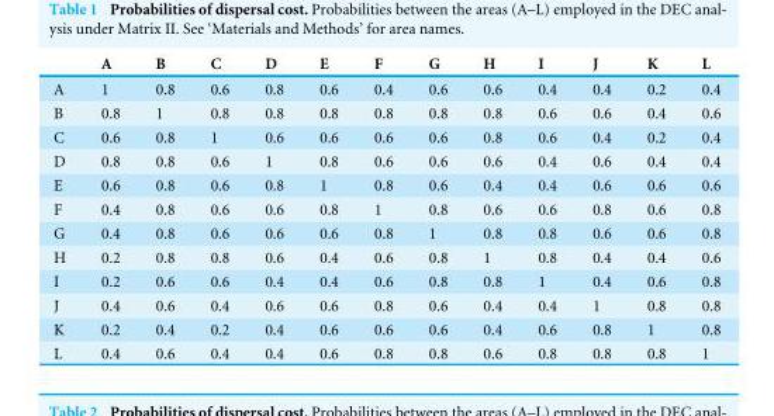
<table><thead><tr><td></td><td>A</td><td>B</td><td>C</td><td>D</td><td>E</td><td>F</td><td>G</td><td>H</td><td>I</td><td>J</td><td>K</td><td>L</td></tr></thead><tbody><tr><td>A</td><td>1</td><td>0.8</td><td>0.6</td><td>0.8</td><td>0.6</td><td>0.4</td><td>0.6</td><td>0.6</td><td>0.4</td><td>0.4</td><td>0.2</td><td>0.4</td></tr><tr><td>B</td><td>0.8</td><td>1</td><td>0.8</td><td>0.8</td><td>0.8</td><td>0.8</td><td>0.8</td><td>0.8</td><td>0.6</td><td>0.6</td><td>0.4</td><td>0.6</td></tr><tr><td>C</td><td>0.6</td><td>0.8</td><td>1</td><td>0.6</td><td>0.6</td><td>0.6</td><td>0.6</td><td>0.8</td><td>0.6</td><td>0.4</td><td>0.2</td><td>0.4</td></tr><tr><td>D</td><td>0.8</td><td>0.8</td><td>0.6</td><td>1</td><td>0.8</td><td>0.6</td><td>0.6</td><td>0.6</td><td>0.4</td><td>0.6</td><td>0.4</td><td>0.4</td></tr><tr><td>E</td><td>0.6</td><td>0.8</td><td>0.6</td><td>0.8</td><td>1</td><td>0.8</td><td>0.6</td><td>0.4</td><td>0.4</td><td>0.6</td><td>0.6</td><td>0.6</td></tr><tr><td>F</td><td>0.4</td><td>0.8</td><td>0.6</td><td>0.6</td><td>0.8</td><td>1</td><td>0.8</td><td>0.6</td><td>0.6</td><td>0.8</td><td>0.6</td><td>0.8</td></tr><tr><td>G</td><td>0.4</td><td>0.8</td><td>0.6</td><td>0.6</td><td>0.6</td><td>0.8</td><td>1</td><td>0.8</td><td>0.8</td><td>0.6</td><td>0.6</td><td>0.8</td></tr><tr><td>H</td><td>0.2</td><td>0.8</td><td>0.8</td><td>0.6</td><td>0.4</td><td>0.6</td><td>0.8</td><td>1</td><td>0.8</td><td>0.4</td><td>0.4</td><td>0.6</td></tr><tr><td>I</td><td>0.2</td><td>0.6</td><td>0.6</td><td>0.4</td><td>0.4</td><td>0.6</td><td>0.8</td><td>0.8</td><td>1</td><td>0.4</td><td>0.6</td><td>0.8</td></tr><tr><td>J</td><td>0.4</td><td>0.6</td><td>0.4</td><td>0.6</td><td>0.6</td><td>0.8</td><td>0.6</td><td>0.4</td><td>0.4</td><td>1</td><td>0.8</td><td>0.8</td></tr><tr><td>K</td><td>0.2</td><td>0.4</td><td>0.2</td><td>0.4</td><td>0.6</td><td>0.6</td><td>0.6</td><td>0.4</td><td>0.6</td><td>0.8</td><td>1</td><td>0.8</td></tr><tr><td>L</td><td>0.4</td><td>0.6</td><td>0.4</td><td>0.4</td><td>0.6</td><td>0.8</td><td>0.8</td><td>0.6</td><td>0.8</td><td>0.8</td><td>0.8</td><td>1</td></tr></tbody></table>